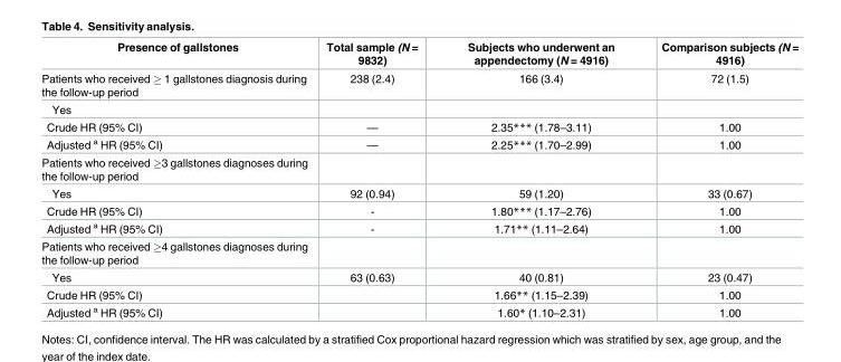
<table><thead><tr><td>Presence of gallstones</td><td>Total sample (N = 9832)</td><td>Subjects who underwent an appendectomy (N = 4916)</td><td>Comparison subjects (N = 4916)</td></tr></thead><tbody><tr><td>Patients who received ≥ 1 gallstones diagnosis during the follow-up period</td><td>238 (2.4)</td><td>166 (3.4)</td><td>72 (1.5)</td></tr><tr><td colspan="4">Yes</td></tr><tr><td>Crude HR (95% CI)</td><td>—</td><td>2.35*** (1.78–3.11)</td><td>1.00</td></tr><tr><td>Adjusted <sup>a</sup> HR (95% CI)</td><td>—</td><td>2.25*** (1.70–2.99)</td><td>1.00</td></tr><tr><td colspan="4">Patients who received ≥3 gallstones diagnoses during the follow-up period</td></tr><tr><td>Yes</td><td>92 (0.94)</td><td>59 (1.20)</td><td>33 (0.67)</td></tr><tr><td>Crude HR (95% CI)</td><td>-</td><td>1.80*** (1.17–2.76)</td><td>1.00</td></tr><tr><td>Adjusted <sup>a</sup> HR (95% CI)</td><td>-</td><td>1.71** (1.11–2.64)</td><td>1.00</td></tr><tr><td colspan="4">Patients who received ≥4 gallstones diagnoses during the follow-up period</td></tr><tr><td>Yes</td><td>63 (0.63)</td><td>40 (0.81)</td><td>23 (0.47)</td></tr><tr><td>Crude HR (95% CI)</td><td></td><td>1.66** (1.15–2.39)</td><td>1.00</td></tr><tr><td>Adjusted <sup>a</sup> HR (95% CI)</td><td></td><td>1.60* (1.10–2.31)</td><td>1.00</td></tr></tbody></table>